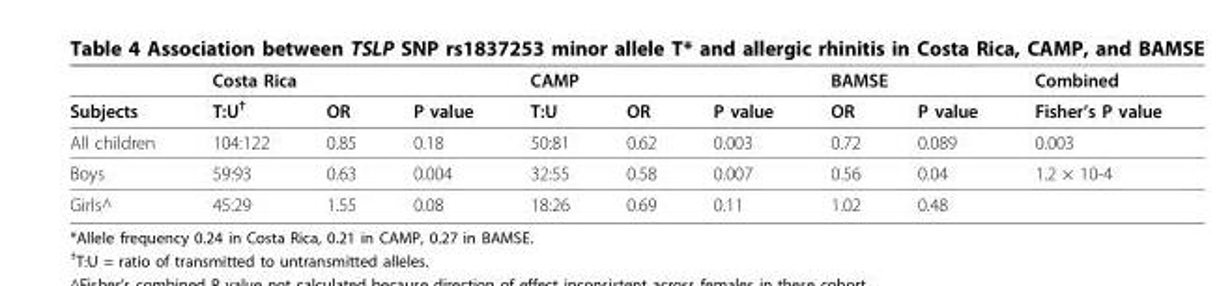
<table><thead><tr><td rowspan="2">Subjects</td><td colspan="3">Costa Rica</td><td colspan="3">CAMP</td><td colspan="2">BAMSE</td><td rowspan="2">Combined Fisher’s P value</td></tr><tr><td>T:U†</td><td>OR</td><td>P value</td><td>T:U</td><td>OR</td><td>P value</td><td>OR</td><td>P value</td></tr></thead><tbody><tr><td>All children</td><td>104:122</td><td>0.85</td><td>0.18</td><td>50:81</td><td>0.62</td><td>0.003</td><td>0.72</td><td>0.089</td><td>0.003</td></tr><tr><td>Boys</td><td>59:93</td><td>0.63</td><td>0.004</td><td>32:55</td><td>0.58</td><td>0.007</td><td>0.56</td><td>0.04</td><td>1.2 × 10-4</td></tr><tr><td>Girls^</td><td>45:29</td><td>1.55</td><td>0.08</td><td>18:26</td><td>0.69</td><td>0.11</td><td>1.02</td><td>0.48</td><td></td></tr></tbody></table>